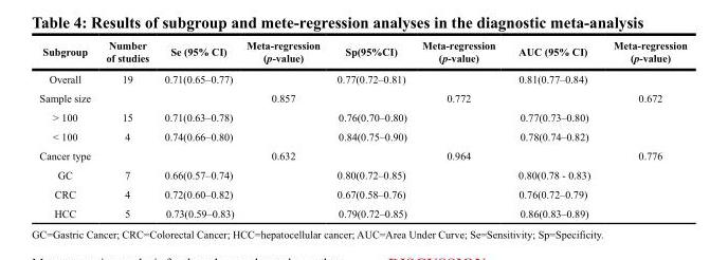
<table><thead><tr><td>Subgroup</td><td>Number of studies</td><td>Se (95% CI)</td><td>Meta-regression (p-value)</td><td>Sp(95%CI)</td><td>Meta-regression (p-value)</td><td>AUC (95% CI)</td><td>Meta-regression (p-value)</td></tr></thead><tbody><tr><td>Overall</td><td>19</td><td>0.71(0.65–0.77)</td><td></td><td>0.77(0.72–0.81)</td><td></td><td>0.81(0.77–0.84)</td><td></td></tr><tr><td>Sample size</td><td></td><td></td><td>0.857</td><td></td><td>0.772</td><td></td><td>0.672</td></tr><tr><td>&gt; 100</td><td>15</td><td>0.71(0.63–0.78)</td><td></td><td>0.76(0.70–0.80)</td><td></td><td>0.77(0.73–0.80)</td><td></td></tr><tr><td>&lt; 100</td><td>4</td><td>0.74(0.66–0.80)</td><td></td><td>0.84(0.75–0.90)</td><td></td><td>0.78(0.74–0.82)</td><td></td></tr><tr><td>Cancer type</td><td></td><td></td><td>0.632</td><td></td><td>0.964</td><td></td><td>0.776</td></tr><tr><td>GC</td><td>7</td><td>0.66(0.57–0.74)</td><td></td><td>0.80(0.72–0.85)</td><td></td><td>0.80(0.78 - 0.83)</td><td></td></tr><tr><td>CRC</td><td>4</td><td>0.72(0.60–0.82)</td><td></td><td>0.67(0.58–0.76)</td><td></td><td>0.76(0.72–0.79)</td><td></td></tr><tr><td>HCC</td><td>5</td><td>0.73(0.59–0.83)</td><td></td><td>0.79(0.72–0.85)</td><td></td><td>0.86(0.83–0.89)</td><td></td></tr></tbody></table>